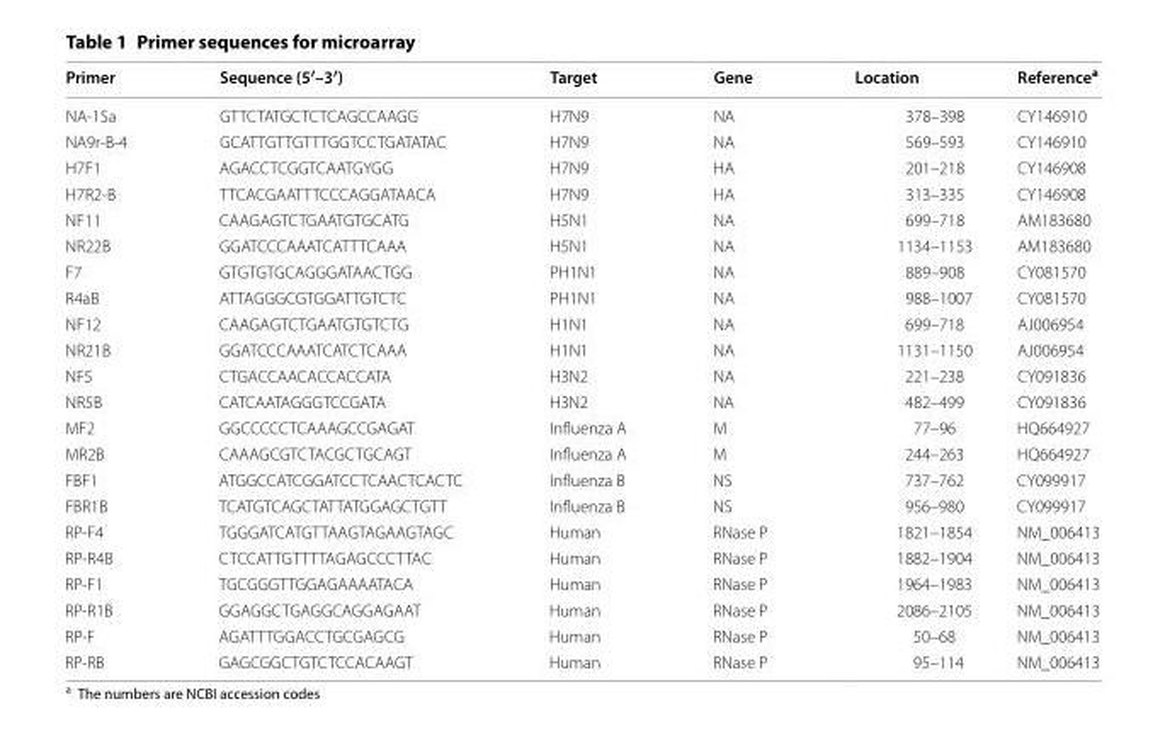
<table><thead><tr><td>Primer</td><td>Sequence (5′–3′)</td><td>Target</td><td>Gene</td><td>Location</td><td>Reference<sup>a</sup></td></tr></thead><tbody><tr><td>NA-1Sa</td><td>GTTCTATGCTCTCAGCCAAGG</td><td>H7N9</td><td>NA</td><td>378–398</td><td>CY146910</td></tr><tr><td>NA9r-B-4</td><td>GCATTGTTGTTTGGTCCTGATATAC</td><td>H7N9</td><td>NA</td><td>569–593</td><td>CY146910</td></tr><tr><td>H7F1</td><td>AGACCTCGGTCAATGYGG</td><td>H7N9</td><td>HA</td><td>201–218</td><td>CY146908</td></tr><tr><td>H7R2-B</td><td>TTCACGAATTTCCCAGGATAACA</td><td>H7N9</td><td>HA</td><td>313–335</td><td>CY146908</td></tr><tr><td>NF11</td><td>CAAGAGTCTGAATGTGCATG</td><td>H5N1</td><td>NA</td><td>699–718</td><td>AM183680</td></tr><tr><td>NR22B</td><td>GGATCCCAAATCATTTCAAA</td><td>H5N1</td><td>NA</td><td>1134–1153</td><td>AM183680</td></tr><tr><td>F7</td><td>GTGTGTGCAGGGATAACTGG</td><td>PH1N1</td><td>NA</td><td>889–908</td><td>CY081570</td></tr><tr><td>R4aB</td><td>ATTAGGGCGTGGATTGTCTC</td><td>PH1N1</td><td>NA</td><td>988–1007</td><td>CY081570</td></tr><tr><td>NF12</td><td>CAAGAGTCTGAATGTGTCTG</td><td>H1N1</td><td>NA</td><td>699–718</td><td>AJ006954</td></tr><tr><td>NR21B</td><td>GGATCCCAAATCATCTCAAA</td><td>H1N1</td><td>NA</td><td>1131–1150</td><td>AJ006954</td></tr><tr><td>NF5</td><td>CTGACCAACACCACCATA</td><td>H3N2</td><td>NA</td><td>221–238</td><td>CY091836</td></tr><tr><td>NR5B</td><td>CATCAATAGGGTCCGATA</td><td>H3N2</td><td>NA</td><td>482–499</td><td>CY091836</td></tr><tr><td>MF2</td><td>GGCCCCCTCAAAGCCGAGAT</td><td>Influenza A</td><td>M</td><td>77–96</td><td>HQ664927</td></tr><tr><td>MR2B</td><td>CAAAGCGTCTACGCTGCAGT</td><td>Influenza A</td><td>M</td><td>244–263</td><td>HQ664927</td></tr><tr><td>FBF1</td><td>ATGGCCATCGGATCCTCAACTCACTC</td><td>Influenza B</td><td>NS</td><td>737–762</td><td>CY099917</td></tr><tr><td>FBR1B</td><td>TCATGTCAGCTATTATGGAGCTGTT</td><td>Influenza B</td><td>NS</td><td>956–980</td><td>CY099917</td></tr><tr><td>RP-F4</td><td>TGGGATCATGTTAAGTAGAAGTAGC</td><td>Human</td><td>RNase P</td><td>1821–1854</td><td>NM_006413</td></tr><tr><td>RP-R4B</td><td>CTCCATTGTTTTAGAGCCCTTAC</td><td>Human</td><td>RNase P</td><td>1882–1904</td><td>NM_006413</td></tr><tr><td>RP-F1</td><td>TGCGGGTTGGAGAAAATACA</td><td>Human</td><td>RNase P</td><td>1964–1983</td><td>NM_006413</td></tr><tr><td>RP-R1B</td><td>GGAGGCTGAGGCAGGAGAAT</td><td>Human</td><td>RNase P</td><td>2086–2105</td><td>NM_006413</td></tr><tr><td>RP-F</td><td>AGATTTGGACCTGCGAGCG</td><td>Human</td><td>RNase P</td><td>50–68</td><td>NM_006413</td></tr><tr><td>RP-RB</td><td>GAGCGGCTGTCTCCACAAGT</td><td>Human</td><td>RNase P</td><td>95–114</td><td>NM_006413</td></tr></tbody></table>